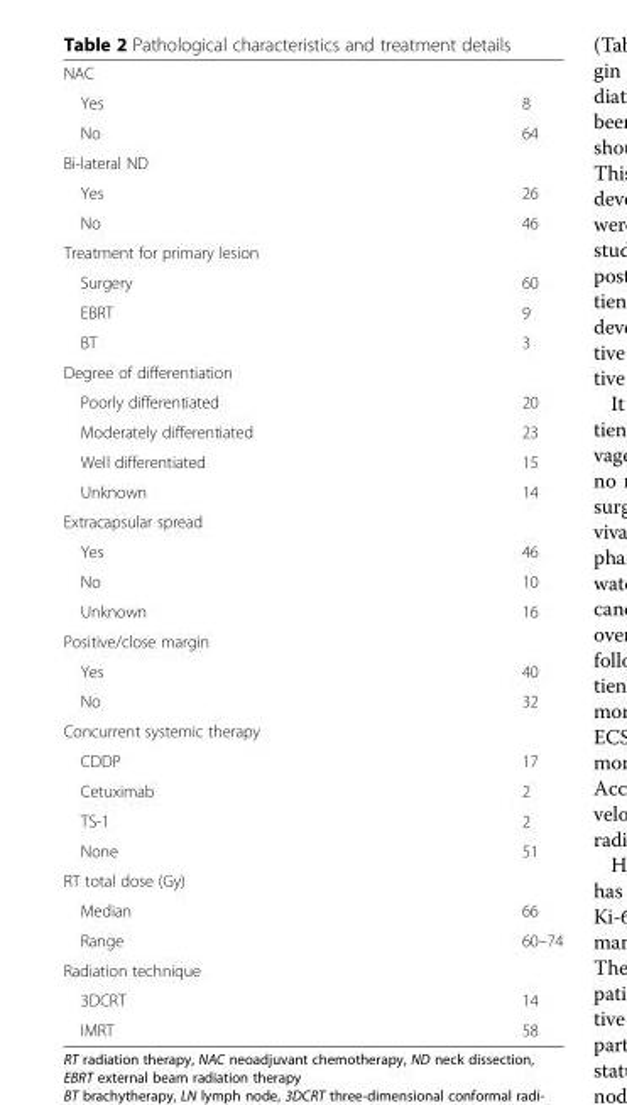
<table><tbody><tr><td colspan="2">NAC</td></tr><tr><td>Yes</td><td>8</td></tr><tr><td>No</td><td>64</td></tr><tr><td colspan="2">Bi-lateral ND</td></tr><tr><td>Yes</td><td>26</td></tr><tr><td>No</td><td>46</td></tr><tr><td colspan="2">Treatment for primary lesion</td></tr><tr><td>Surgery</td><td>60</td></tr><tr><td>EBRT</td><td>9</td></tr><tr><td>BT</td><td>3</td></tr><tr><td colspan="2">Degree of differentiation</td></tr><tr><td>Poorly differentiated</td><td>20</td></tr><tr><td>Moderately differentiated</td><td>23</td></tr><tr><td>Well differentiated</td><td>15</td></tr><tr><td>Unknown</td><td>14</td></tr><tr><td colspan="2">Extracapsular spread</td></tr><tr><td>Yes</td><td>46</td></tr><tr><td>No</td><td>10</td></tr><tr><td>Unknown</td><td>16</td></tr><tr><td colspan="2">Positive/close margin</td></tr><tr><td>Yes</td><td>40</td></tr><tr><td>No</td><td>32</td></tr><tr><td colspan="2">Concurrent systemic therapy</td></tr><tr><td>CDDP</td><td>17</td></tr><tr><td>Cetuximab</td><td>2</td></tr><tr><td>TS-1</td><td>2</td></tr><tr><td>None</td><td>51</td></tr><tr><td colspan="2">RT total dose (Gy)</td></tr><tr><td>Median</td><td>66</td></tr><tr><td>Range</td><td>60–74</td></tr><tr><td colspan="2">Radiation technique</td></tr><tr><td>3DCRT</td><td>14</td></tr><tr><td>IMRT</td><td>58</td></tr></tbody></table>